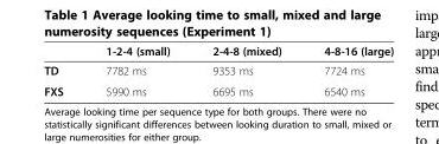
<table><thead><tr><td></td><td>1-2-4 (small)</td><td>2-4-8 (mixed)</td><td>4-8-16 (large)</td></tr></thead><tbody><tr><td>TD</td><td>7782 ms</td><td>9353 ms</td><td>7724 ms</td></tr><tr><td>FXS</td><td>5990 ms</td><td>6695 ms</td><td>6540 ms</td></tr></tbody></table>